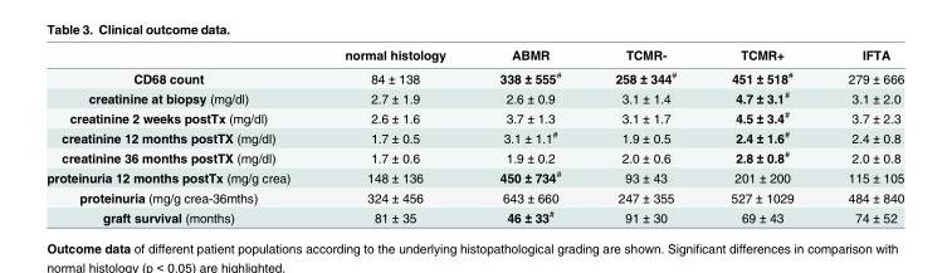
<table><thead><tr><td></td><td>normal histology</td><td>ABMR</td><td>TCMR-</td><td>TCMR+</td><td>IFTA</td></tr></thead><tbody><tr><td>CD68 count</td><td>84 ± 138</td><td>338 ± 555<sup>#</sup></td><td>258 ± 344<sup>#</sup></td><td>451 ± 518<sup>#</sup></td><td>279 ± 666</td></tr><tr><td>creatinine at biopsy (mg/dl)</td><td>2.7 ± 1.9</td><td>2.6 ± 0.9</td><td>3.1 ± 1.4</td><td>4.7 ± 3.1<sup>#</sup></td><td>3.1 ± 2.0</td></tr><tr><td>creatinine 2 weeks postTx (mg/dl)</td><td>2.6 ± 1.6</td><td>3.7 ± 1.3</td><td>3.1 ± 1.7</td><td>4.5 ± 3.4<sup>#</sup></td><td>3.7 ± 2.3</td></tr><tr><td>creatinine 12 months postTX (mg/dl)</td><td>1.7 ± 0.5</td><td>3.1 ± 1.1<sup>#</sup></td><td>1.9 ± 0.5</td><td>2.4 ± 1.6<sup>#</sup></td><td>2.4 ± 0.8</td></tr><tr><td>creatinine 36 months postTX (mg/dl)</td><td>1.7 ± 0.6</td><td>1.9 ± 0.2</td><td>2.0 ± 0.6</td><td>2.8 ± 0.8<sup>#</sup></td><td>2.0 ± 0.8</td></tr><tr><td>proteinuria 12 months postTx (mg/g crea)</td><td>148 ± 136</td><td>450 ± 734<sup>#</sup></td><td>93 ± 43</td><td>201 ± 200</td><td>115 ± 105</td></tr><tr><td>proteinuria (mg/g crea-36mths)</td><td>324 ± 456</td><td>643 ± 660</td><td>247 ± 355</td><td>527 ± 1029</td><td>484 ± 840</td></tr><tr><td>graft survival (months)</td><td>81 ± 35</td><td>46 ± 33<sup>#</sup></td><td>91 ± 30</td><td>69 ± 43</td><td>74 ± 52</td></tr></tbody></table>